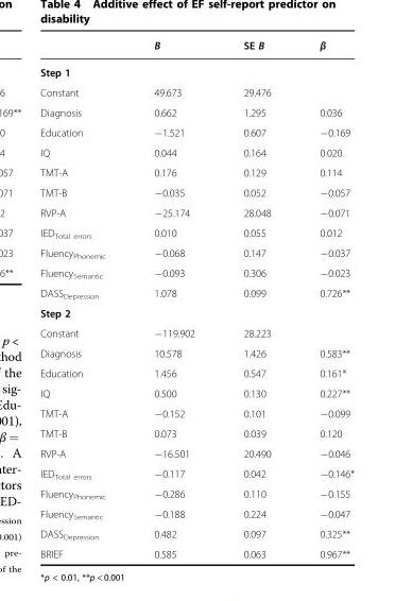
<table><thead><tr><td></td><td>B</td><td>SE B</td><td>β</td></tr></thead><tbody><tr><td colspan="4">Step 1</td></tr><tr><td>Constant</td><td>49.673</td><td>29.476</td><td></td></tr><tr><td>Diagnosis</td><td>0.662</td><td>1.295</td><td>0.036</td></tr><tr><td>Education</td><td>−1.521</td><td>0.607</td><td>−0.169</td></tr><tr><td>IQ</td><td>0.044</td><td>0.164</td><td>0.020</td></tr><tr><td>TMT-A</td><td>0.176</td><td>0.129</td><td>0.114</td></tr><tr><td>TMT-B</td><td>−0.035</td><td>0.052</td><td>−0.057</td></tr><tr><td>RVP-A</td><td>−25.174</td><td>28.048</td><td>−0.071</td></tr><tr><td>IED<sub>Total errors</sub></td><td>0.010</td><td>0.055</td><td>0.012</td></tr><tr><td>Fluency<sub>Phonemic</sub></td><td>−0.068</td><td>0.147</td><td>−0.037</td></tr><tr><td>Fluency<sub>Semantic</sub></td><td>−0.093</td><td>0.306</td><td>−0.023</td></tr><tr><td>DASS<sub>Depression</sub></td><td>1.078</td><td>0.099</td><td>0.726**</td></tr><tr><td colspan="4">Step 2</td></tr><tr><td>Constant</td><td>−119.902</td><td>28.223</td><td></td></tr><tr><td>Diagnosis</td><td>10.578</td><td>1.426</td><td>0.583**</td></tr><tr><td>Education</td><td>1.456</td><td>0.547</td><td>0.161*</td></tr><tr><td>IQ</td><td>0.500</td><td>0.130</td><td>0.227**</td></tr><tr><td>TMT-A</td><td>−0.152</td><td>0.101</td><td>−0.099</td></tr><tr><td>TMT-B</td><td>0.073</td><td>0.039</td><td>0.120</td></tr><tr><td>RVP-A</td><td>−16.501</td><td>20.490</td><td>−0.046</td></tr><tr><td>IED<sub>Total errors</sub></td><td>−0.117</td><td>0.042</td><td>−0.146*</td></tr><tr><td>Fluency<sub>Phonemic</sub></td><td>−0.286</td><td>0.110</td><td>−0.155</td></tr><tr><td>Fluency<sub>Semantic</sub></td><td>−0.188</td><td>0.224</td><td>−0.047</td></tr><tr><td>DASS<sub>Depression</sub></td><td>0.482</td><td>0.097</td><td>0.325**</td></tr><tr><td>BRIEF</td><td>0.585</td><td>0.063</td><td>0.967**</td></tr></tbody></table>